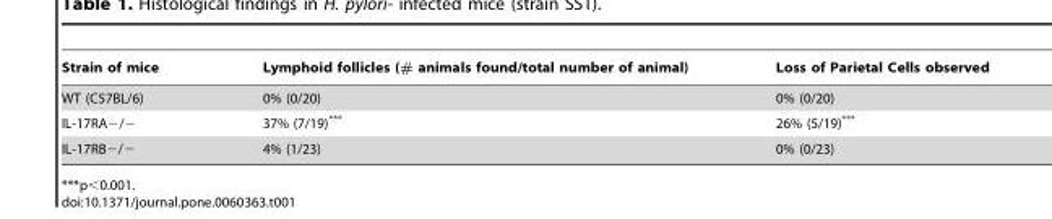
<table><thead><tr><td>Strain of mice</td><td>Lymphoid follicles (# animals found/total number of animal)</td><td>Loss of Parietal Cells observed</td></tr></thead><tbody><tr><td>WT (C57BL/6)</td><td>0% (0/20)</td><td>0% (0/20)</td></tr><tr><td>IL-17RA−/−</td><td>37% (7/19)***</td><td>26% (5/19)***</td></tr><tr><td>IL-17RB−/−</td><td>4% (1/23)</td><td>0% (0/23)</td></tr></tbody></table>